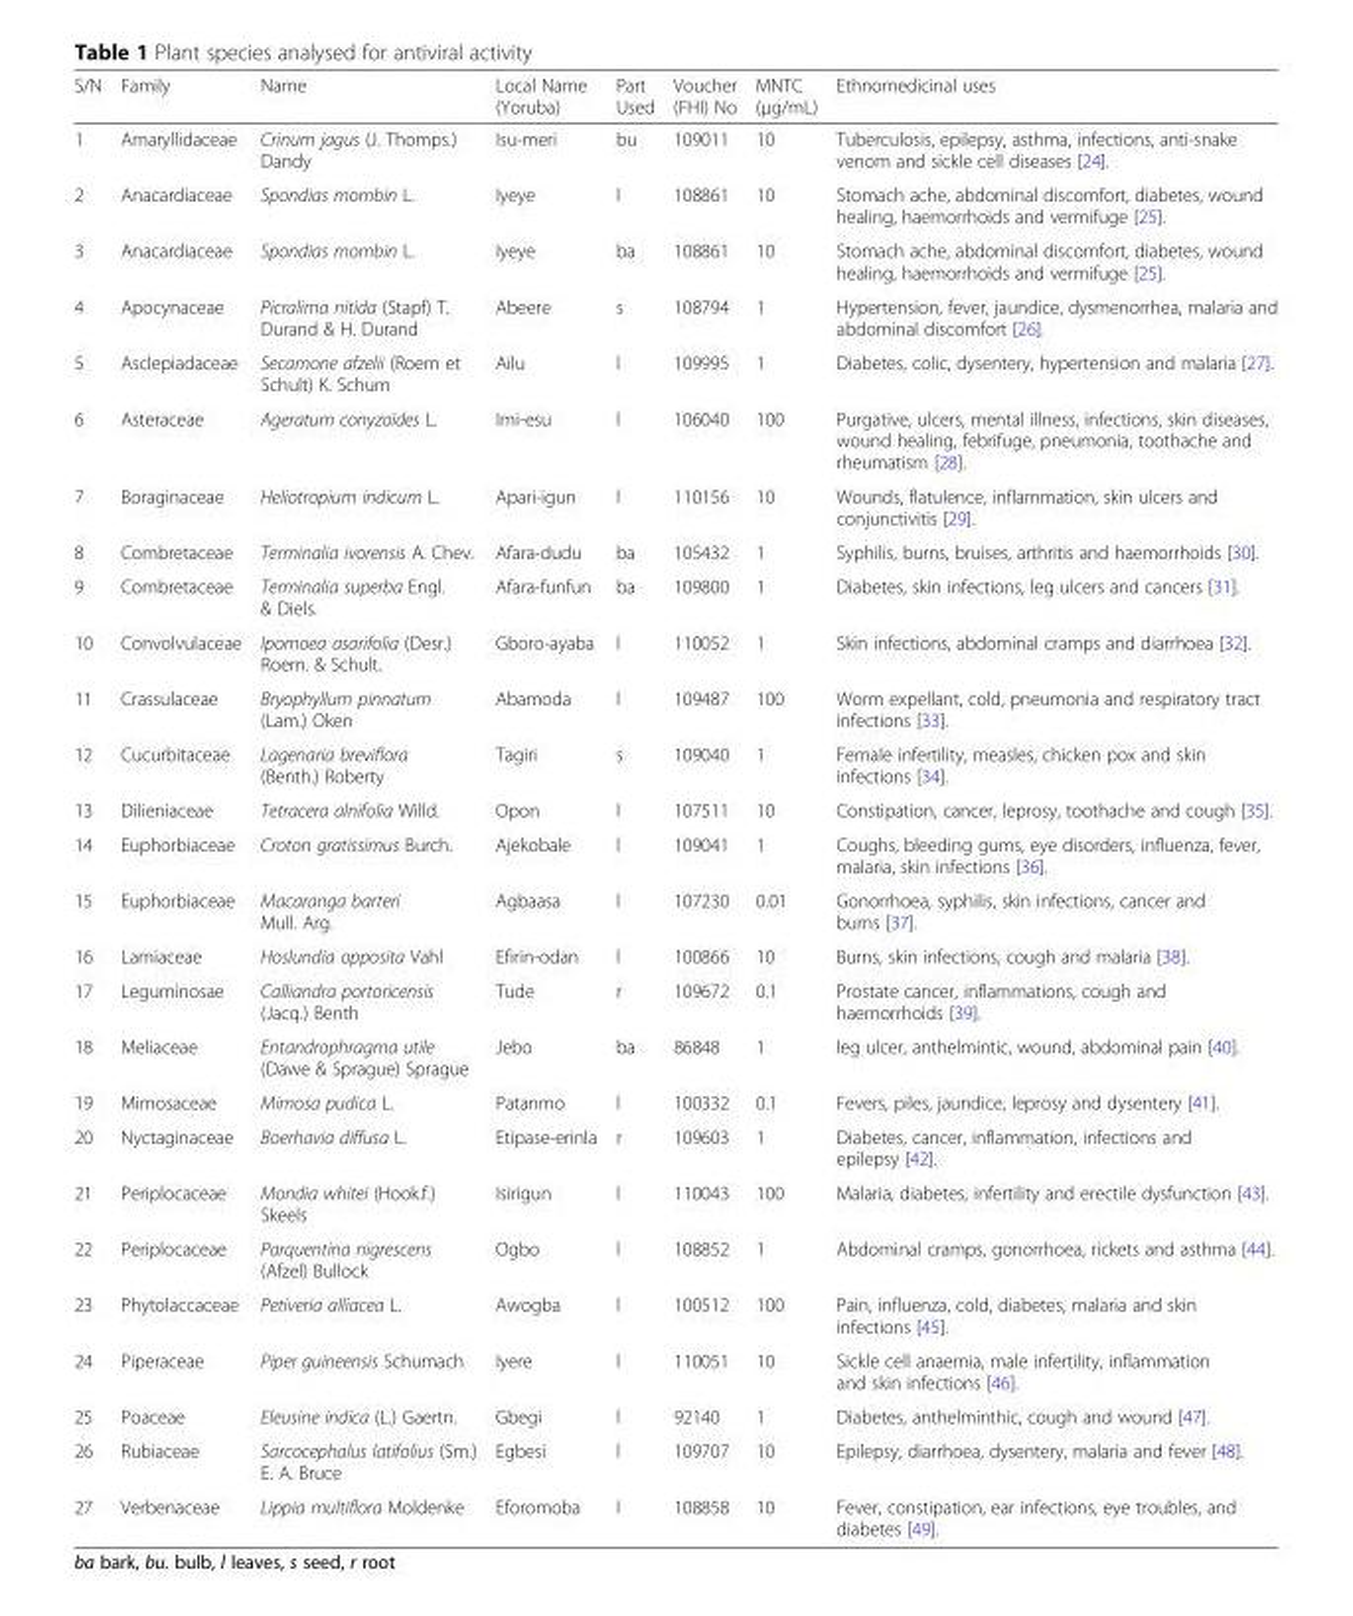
<table><thead><tr><td>S/N</td><td>Family</td><td>Name</td><td>Local Name (Yoruba)</td><td>Part Used</td><td>Voucher (FHI) No</td><td>MNTC (μg/mL)</td><td>Ethnomedicinal uses</td></tr></thead><tbody><tr><td>1</td><td>Amaryllidaceae</td><td>Crinum jagus (J. Thomps.) Dandy</td><td>Isu-meri</td><td>bu</td><td>109011</td><td>10</td><td>Tuberculosis, epilepsy, asthma, infections, anti-snake venom and sickle cell diseases [24].</td></tr><tr><td>2</td><td>Anacardiaceae</td><td>Spondias mombin L.</td><td>Iyeye</td><td>l</td><td>108861</td><td>10</td><td>Stomach ache, abdominal discomfort, diabetes, wound healing, haemorrhoids and vermifuge [25].</td></tr><tr><td>3</td><td>Anacardiaceae</td><td>Spondias mombin L.</td><td>Iyeye</td><td>ba</td><td>108861</td><td>10</td><td>Stomach ache, abdominal discomfort, diabetes, wound healing, haemorrhoids and vermifuge [25].</td></tr><tr><td>4</td><td>Apocynaceae</td><td>Picralima nitida (Stapf) T. Durand &amp; H. Durand</td><td>Abeere</td><td>s</td><td>108794</td><td>1</td><td>Hypertension, fever, jaundice, dysmenorrhea, malaria and abdominal discomfort [26].</td></tr><tr><td>5</td><td>Asclepiadaceae</td><td>Secamone afzelii (Roem et Schult) K. Schum</td><td>Ailu</td><td>l</td><td>109995</td><td>1</td><td>Diabetes, colic, dysentery, hypertension and malaria [27].</td></tr><tr><td>6</td><td>Asteraceae</td><td>Ageratum conyzoides L.</td><td>Imi-esu</td><td>l</td><td>106040</td><td>100</td><td>Purgative, ulcers, mental illness, infections, skin diseases, wound healing, febrifuge, pneumonia, toothache and rheumatism [28].</td></tr><tr><td>7</td><td>Boraginaceae</td><td>Heliotropium indicum L.</td><td>Apari-igun</td><td>l</td><td>110156</td><td>10</td><td>Wounds, flatulence, inflammation, skin ulcers and conjunctivitis [29].</td></tr><tr><td>8</td><td>Combretaceae</td><td>Terminalia ivorensis A. Chev.</td><td>Afara-dudu</td><td>ba</td><td>105432</td><td>1</td><td>Syphilis, burns, bruises, arthritis and haemorrhoids [30].</td></tr><tr><td>9</td><td>Combretaceae</td><td>Terminalia superba Engl. &amp; Diels.</td><td>Afara-funfun</td><td>ba</td><td>109800</td><td>1</td><td>Diabetes, skin infections, leg ulcers and cancers [31].</td></tr><tr><td>10</td><td>Convolvulaceae</td><td>Ipomoea asarifolia (Desr.) Roem. &amp; Schult.</td><td>Gboro-ayaba</td><td>l</td><td>110052</td><td>1</td><td>Skin infections, abdominal cramps and diarrhoea [32].</td></tr><tr><td>11</td><td>Crassulaceae</td><td>Bryophyllum pinnatum (Lam.) Oken</td><td>Abamoda</td><td>l</td><td>109487</td><td>100</td><td>Worm expellant, cold, pneumonia and respiratory tract infections [33].</td></tr><tr><td>12</td><td>Cucurbitaceae</td><td>Lagenaria breviflora (Benth.) Roberty</td><td>Tagiri</td><td>s</td><td>109040</td><td>1</td><td>Female infertility, measles, chicken pox and skin infections [34].</td></tr><tr><td>13</td><td>Dilieniaceae</td><td>Tetracera alnifolia Willd.</td><td>Opon</td><td>l</td><td>107511</td><td>10</td><td>Constipation, cancer, leprosy, toothache and cough [35].</td></tr><tr><td>14</td><td>Euphorbiaceae</td><td>Croton gratissimus Burch.</td><td>Ajekobale</td><td>l</td><td>109041</td><td>1</td><td>Coughs, bleeding gums, eye disorders, influenza, fever, malaria, skin infections [36].</td></tr><tr><td>15</td><td>Euphorbiaceae</td><td>Macaranga barteri Mull. Arg.</td><td>Agbaasa</td><td>l</td><td>107230</td><td>0.01</td><td>Gonorrhoea, syphilis, skin infections, cancer and burns [37].</td></tr><tr><td>16</td><td>Lamiaceae</td><td>Hoslundia opposita Vahl</td><td>Efirin-odan</td><td>l</td><td>100866</td><td>10</td><td>Burns, skin infections, cough and malaria [38].</td></tr><tr><td>17</td><td>Leguminosae</td><td>Calliandra portoricensis (Jacq.) Benth</td><td>Tude</td><td>r</td><td>109672</td><td>0.1</td><td>Prostate cancer, inflammations, cough and haemorrhoids [39].</td></tr><tr><td>18</td><td>Meliaceae</td><td>Entandrophragma utile (Dawe &amp; Sprague) Sprague</td><td>Jebo</td><td>ba</td><td>86848</td><td>1</td><td>leg ulcer, anthelmintic, wound, abdominal pain [40].</td></tr><tr><td>19</td><td>Mimosaceae</td><td>Mimosa pudica L.</td><td>Patanmo</td><td>l</td><td>100332</td><td>0.1</td><td>Fevers, piles, jaundice, leprosy and dysentery [41].</td></tr><tr><td>20</td><td>Nyctaginaceae</td><td>Boerhavia diffusa L.</td><td>Etipase-erinla</td><td>r</td><td>109603</td><td>1</td><td>Diabetes, cancer, inflammation, infections and epilepsy [42].</td></tr><tr><td>21</td><td>Periplocaceae</td><td>Mondia whitei (Hook.f.) Skeels</td><td>Isirigun</td><td>l</td><td>110043</td><td>100</td><td>Malaria, diabetes, infertility and erectile dysfunction [43].</td></tr><tr><td>22</td><td>Periplocaceae</td><td>Parquentina nigrescens (Afzel) Bullock</td><td>Ogbo</td><td>l</td><td>108852</td><td>1</td><td>Abdominal cramps, gonorrhoea, rickets and asthma [44].</td></tr><tr><td>23</td><td>Phytolaccaceae</td><td>Petiveria alliacea L.</td><td>Awogba</td><td>l</td><td>100512</td><td>100</td><td>Pain, influenza, cold, diabetes, malaria and skin infections [45].</td></tr><tr><td>24</td><td>Piperaceae</td><td>Piper guineensis Schumach</td><td>Iyere</td><td>l</td><td>110051</td><td>10</td><td>Sickle cell anaemia, male infertility, inflammation and skin infections [46].</td></tr><tr><td>25</td><td>Poaceae</td><td>Eleusine indica (L.) Gaertn.</td><td>Gbegi</td><td>l</td><td>92140</td><td>1</td><td>Diabetes, anthelminthic, cough and wound [47].</td></tr><tr><td>26</td><td>Rubiaceae</td><td>Sarcocephalus latifolius (Sm.) E. A. Bruce</td><td>Egbesi</td><td>l</td><td>109707</td><td>10</td><td>Epilepsy, diarrhoea, dysentery, malaria and fever [48].</td></tr><tr><td>27</td><td>Verbenaceae</td><td>Lippia multiflora Moldenke</td><td>Eforomoba</td><td>l</td><td>108858</td><td>10</td><td>Fever, constipation, ear infections, eye troubles, and diabetes [49].</td></tr></tbody></table>